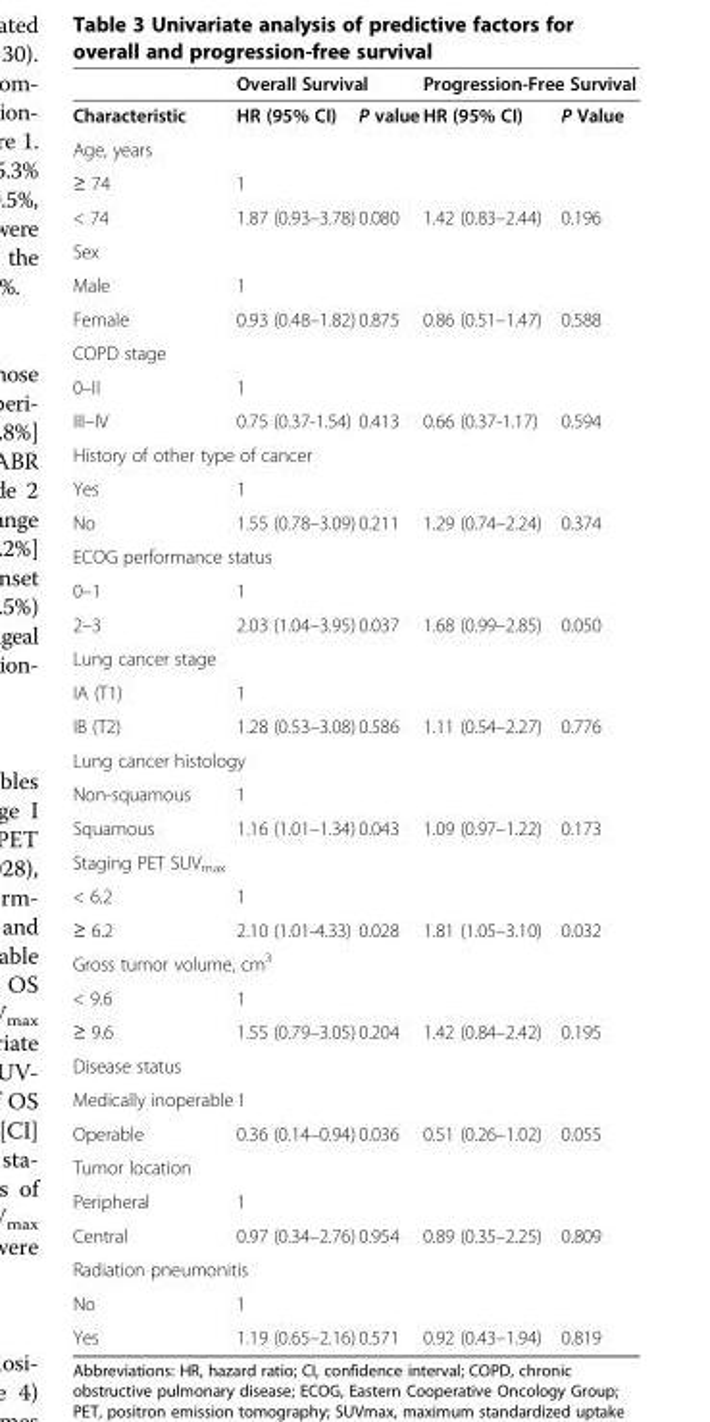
<table><thead><tr><td rowspan="2">Characteristic</td><td colspan="2">Overall Survival</td><td colspan="2">Progression-Free Survival</td></tr><tr><td>HR (95% CI)</td><td>P value</td><td>HR (95% CI)</td><td>P Value</td></tr></thead><tbody><tr><td colspan="5">Age, years</td></tr><tr><td>≥ 74</td><td>1</td><td></td><td></td><td></td></tr><tr><td>&lt; 74</td><td>1.87 (0.93–3.78)</td><td>0.080</td><td>1.42 (0.83–2.44)</td><td>0.196</td></tr><tr><td colspan="5">Sex</td></tr><tr><td>Male</td><td>1</td><td></td><td></td><td></td></tr><tr><td>Female</td><td>0.93 (0.48–1.82)</td><td>0.875</td><td>0.86 (0.51–1.47)</td><td>0.588</td></tr><tr><td colspan="5">COPD stage</td></tr><tr><td>0–II</td><td>1</td><td></td><td></td><td></td></tr><tr><td>III–IV</td><td>0.75 (0.37-1.54)</td><td>0.413</td><td>0.66 (0.37-1.17)</td><td>0.594</td></tr><tr><td colspan="5">History of other type of cancer</td></tr><tr><td>Yes</td><td>1</td><td></td><td></td><td></td></tr><tr><td>No</td><td>1.55 (0.78–3.09)</td><td>0.211</td><td>1.29 (0.74–2.24)</td><td>0.374</td></tr><tr><td colspan="5">ECOG performance status</td></tr><tr><td>0–1</td><td>1</td><td></td><td></td><td></td></tr><tr><td>2–3</td><td>2.03 (1.04–3.95)</td><td>0.037</td><td>1.68 (0.99–2.85)</td><td>0.050</td></tr><tr><td colspan="5">Lung cancer stage</td></tr><tr><td>IA (T1)</td><td>1</td><td></td><td></td><td></td></tr><tr><td>IB (T2)</td><td>1.28 (0.53–3.08)</td><td>0.586</td><td>1.11 (0.54–2.27)</td><td>0.776</td></tr><tr><td colspan="5">Lung cancer histology</td></tr><tr><td>Non-squamous</td><td>1</td><td></td><td></td><td></td></tr><tr><td>Squamous</td><td>1.16 (1.01–1.34)</td><td>0.043</td><td>1.09 (0.97–1.22)</td><td>0.173</td></tr><tr><td colspan="5">Staging PET SUV<sub>max</sub></td></tr><tr><td>&lt; 6.2</td><td>1</td><td></td><td></td><td></td></tr><tr><td>≥ 6.2</td><td>2.10 (1.01-4.33)</td><td>0.028</td><td>1.81 (1.05–3.10)</td><td>0.032</td></tr><tr><td colspan="5">Gross tumor volume, cm<sup>3</sup></td></tr><tr><td>&lt; 9.6</td><td>1</td><td></td><td></td><td></td></tr><tr><td>≥ 9.6</td><td>1.55 (0.79–3.05)</td><td>0.204</td><td>1.42 (0.84–2.42)</td><td>0.195</td></tr><tr><td colspan="5">Disease status</td></tr><tr><td>Medically inoperable</td><td>1</td><td></td><td></td><td></td></tr><tr><td>Operable</td><td>0.36 (0.14–0.94)</td><td>0.036</td><td>0.51 (0.26–1.02)</td><td>0.055</td></tr><tr><td colspan="5">Tumor location</td></tr><tr><td>Peripheral</td><td>1</td><td></td><td></td><td></td></tr><tr><td>Central</td><td>0.97 (0.34–2.76)</td><td>0.954</td><td>0.89 (0.35–2.25)</td><td>0.809</td></tr><tr><td colspan="5">Radiation pneumonitis</td></tr><tr><td>No</td><td>1</td><td></td><td></td><td></td></tr><tr><td>Yes</td><td>1.19 (0.65–2.16)</td><td>0.571</td><td>0.92 (0.43–1.94)</td><td>0.819</td></tr></tbody></table>